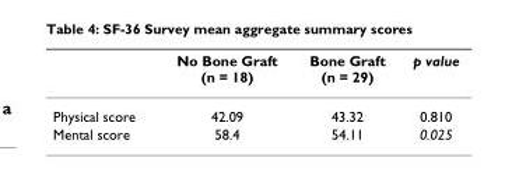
<table><thead><tr><td></td><td>No Bone Graft (n = 18)</td><td>Bone Graft (n = 29)</td><td>p value</td></tr></thead><tbody><tr><td>Physical score</td><td>42.09</td><td>43.32</td><td>0.810</td></tr><tr><td>Mental score</td><td>58.4</td><td>54.11</td><td>0.025</td></tr></tbody></table>